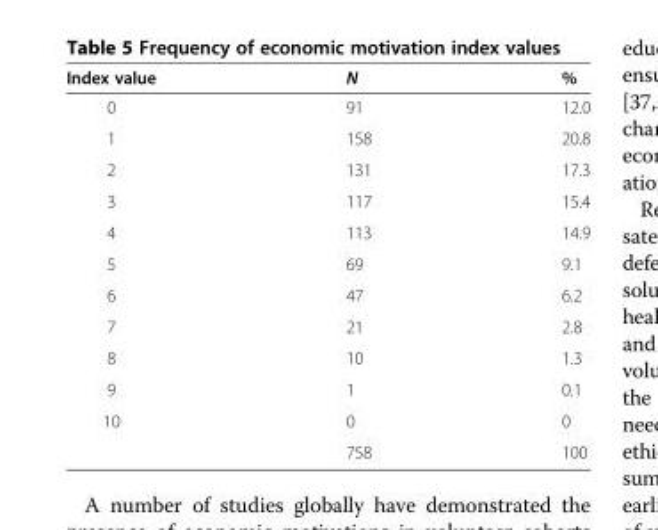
<table><thead><tr><td>Index value</td><td>N</td><td>%</td></tr></thead><tbody><tr><td>0</td><td>91</td><td>12.0</td></tr><tr><td>1</td><td>158</td><td>20.8</td></tr><tr><td>2</td><td>131</td><td>17.3</td></tr><tr><td>3</td><td>117</td><td>15.4</td></tr><tr><td>4</td><td>113</td><td>14.9</td></tr><tr><td>5</td><td>69</td><td>9.1</td></tr><tr><td>6</td><td>47</td><td>6.2</td></tr><tr><td>7</td><td>21</td><td>2.8</td></tr><tr><td>8</td><td>10</td><td>1.3</td></tr><tr><td>9</td><td>1</td><td>0.1</td></tr><tr><td rowspan="2">10</td><td>0</td><td>0</td></tr><tr><td>758</td><td>100</td></tr></tbody></table>